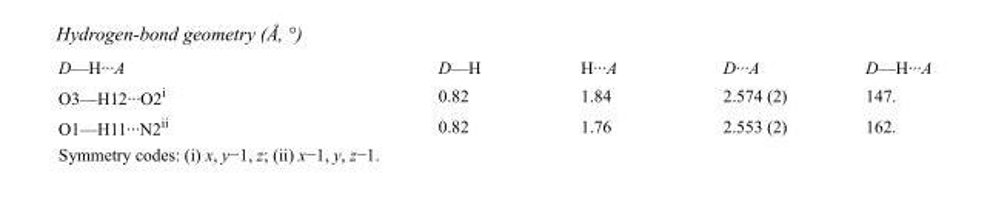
<table><tbody><tr><td>D—H···A</td><td>D—H</td><td>H···A</td><td>D···A</td><td>D—H···A</td></tr><tr><td>O3—H12···O2<sup>i</sup></td><td>0.82</td><td>1.84</td><td>2.574 (2)</td><td>147.</td></tr><tr><td>O1—H11···N2<sup>ii</sup></td><td>0.82</td><td>1.76</td><td>2.553 (2)</td><td>162.</td></tr></tbody></table>